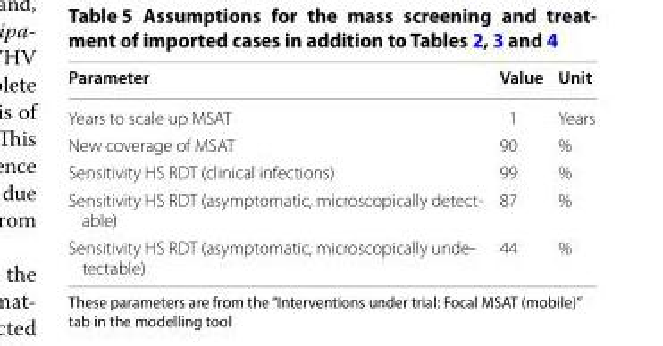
<table><thead><tr><td>Parameter</td><td>Value</td><td>Unit</td></tr></thead><tbody><tr><td>Years to scale up MSAT</td><td>1</td><td>Years</td></tr><tr><td>New coverage of MSAT</td><td>90</td><td>%</td></tr><tr><td>Sensitivity HS RDT (clinical infections)</td><td>99</td><td>%</td></tr><tr><td>Sensitivity HS RDT (asymptomatic, microscopically detect‑ able)</td><td>87</td><td>%</td></tr><tr><td>Sensitivity HS RDT (asymptomatic, microscopically unde‑ tectable)</td><td>44</td><td>%</td></tr></tbody></table>